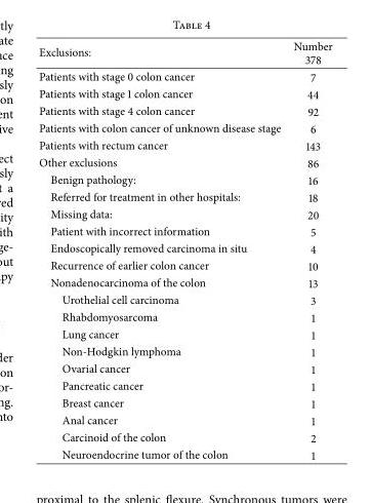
<table><thead><tr><td>Exclusions:</td><td>Number 378</td></tr></thead><tbody><tr><td>Patients with stage 0 colon cancer</td><td>7</td></tr><tr><td>Patients with stage 1 colon cancer</td><td>44</td></tr><tr><td>Patients with stage 4 colon cancer</td><td>92</td></tr><tr><td>Patients with colon cancer of unknown disease stage</td><td>6</td></tr><tr><td>Patients with rectum cancer</td><td>143</td></tr><tr><td>Other exclusions</td><td>86</td></tr><tr><td>Benign pathology:</td><td>16</td></tr><tr><td>Referred for treatment in other hospitals:</td><td>18</td></tr><tr><td>Missing data:</td><td>20</td></tr><tr><td>Patient with incorrect information</td><td>5</td></tr><tr><td>Endoscopically removed carcinoma in situ</td><td>4</td></tr><tr><td>Recurrence of earlier colon cancer</td><td>10</td></tr><tr><td>Nonadenocarcinoma of the colon</td><td>13</td></tr><tr><td>Urothelial cell carcinoma</td><td>3</td></tr><tr><td>Rhabdomyosarcoma</td><td>1</td></tr><tr><td>Lung cancer</td><td>1</td></tr><tr><td>Non-Hodgkin lymphoma</td><td>1</td></tr><tr><td>Ovarial cancer</td><td>1</td></tr><tr><td>Pancreatic cancer</td><td>1</td></tr><tr><td>Breast cancer</td><td>1</td></tr><tr><td>Anal cancer</td><td>1</td></tr><tr><td>Carcinoid of the colon</td><td>2</td></tr><tr><td>Neuroendocrine tumor of the colon</td><td>1</td></tr></tbody></table>